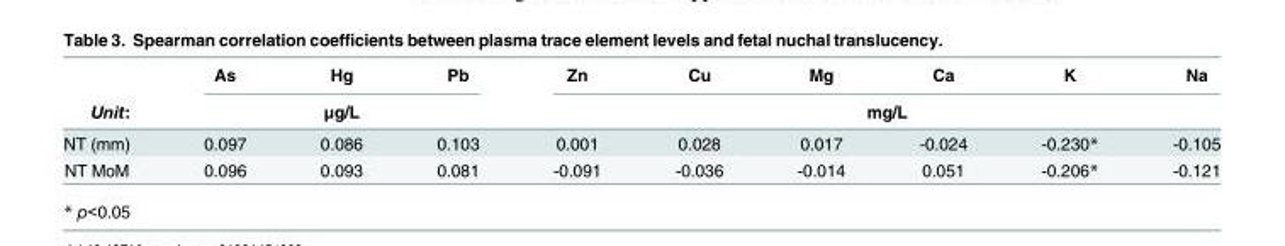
<table><thead><tr><td rowspan="2">Unit:</td><td>As</td><td>Hg</td><td>Pb</td><td>Zn</td><td>Cu</td><td>Mg</td><td>Ca</td><td>K</td><td>Na</td></tr><tr><td colspan="3">μg/L</td><td colspan="6">mg/L</td></tr></thead><tbody><tr><td>NT (mm)</td><td>0.097</td><td>0.086</td><td>0.103</td><td>0.001</td><td>0.028</td><td>0.017</td><td>-0.024</td><td>-0.230*</td><td>-0.105</td></tr><tr><td>NT MoM</td><td>0.096</td><td>0.093</td><td>0.081</td><td>-0.091</td><td>-0.036</td><td>-0.014</td><td>0.051</td><td>-0.206*</td><td>-0.121</td></tr></tbody></table>